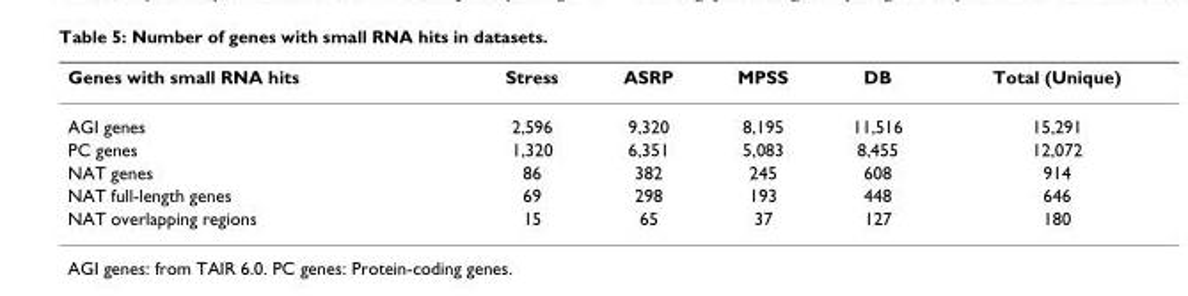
<table><thead><tr><td>Genes with small RNA hits</td><td>Stress</td><td>ASRP</td><td>MPSS</td><td>DB</td><td>Total (Unique)</td></tr></thead><tbody><tr><td>AGI genes</td><td>2,596</td><td>9,320</td><td>8,195</td><td>11,516</td><td>15,291</td></tr><tr><td>PC genes</td><td>1,320</td><td>6,351</td><td>5,083</td><td>8,455</td><td>12,072</td></tr><tr><td>NAT genes</td><td>86</td><td>382</td><td>245</td><td>608</td><td>914</td></tr><tr><td>NAT full-length genes</td><td>69</td><td>298</td><td>193</td><td>448</td><td>646</td></tr><tr><td>NAT overlapping regions</td><td>15</td><td>65</td><td>37</td><td>127</td><td>180</td></tr></tbody></table>